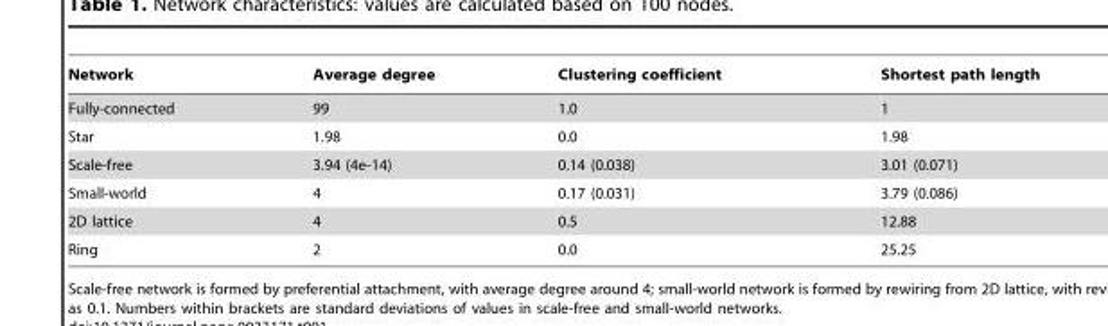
<table><thead><tr><td>Network</td><td>Average degree</td><td>Clustering coefficient</td><td>Shortest path length</td></tr></thead><tbody><tr><td>Fully-connected</td><td>99</td><td>1.0</td><td>1</td></tr><tr><td>Star</td><td>1.98</td><td>0.0</td><td>1.98</td></tr><tr><td>Scale-free</td><td>3.94 (4e-14)</td><td>0.14 (0.038)</td><td>3.01 (0.071)</td></tr><tr><td>Small-world</td><td>4</td><td>0.17 (0.031)</td><td>3.79 (0.086)</td></tr><tr><td>2D lattice</td><td>4</td><td>0.5</td><td>12.88</td></tr><tr><td>Ring</td><td>2</td><td>0.0</td><td>25.25</td></tr></tbody></table>